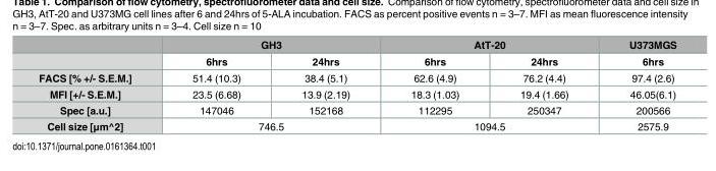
<table><thead><tr><td rowspan="2"></td><td colspan="2">GH3</td><td colspan="2">AtT-20</td><td rowspan="2">U373MGS 6hrs</td></tr><tr><td>6hrs</td><td>24hrs</td><td>6hrs</td><td>24hrs</td></tr></thead><tbody><tr><td>FACS [% +/- S.E.M.]</td><td>51.4 (10.3)</td><td>38.4 (5.1)</td><td>62.6 (4.9)</td><td>76.2 (4.4)</td><td>97.4 (2.6)</td></tr><tr><td>MFI [+/- S.E.M.]</td><td>23.5 (6.68)</td><td>13.9 (2.19)</td><td>18.3 (1.03)</td><td>19.4 (1.66)</td><td>46.05(6.1)</td></tr><tr><td>Spec [a.u.]</td><td>147046</td><td>152168</td><td>112295</td><td>250347</td><td>200566</td></tr><tr><td>Cell size [μm^2]</td><td colspan="2">746.5</td><td colspan="2">1094.5</td><td>2575.9</td></tr></tbody></table>